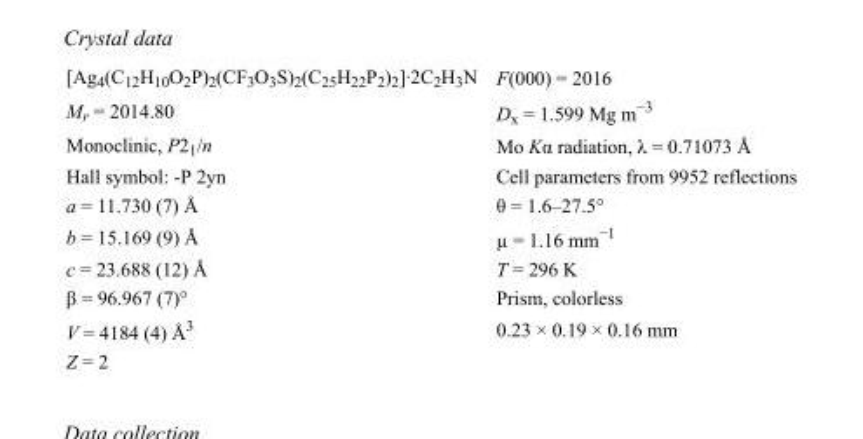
<table><tbody><tr><td>[Ag<sub>4</sub>(C<sub>12</sub>H<sub>10</sub>O<sub>2</sub>P)<sub>2</sub>(CF<sub>3</sub>O<sub>3</sub>S)<sub>2</sub>(C<sub>25</sub>H<sub>22</sub>P<sub>2</sub>)<sub>2</sub>]·2C<sub>2</sub>H<sub>3</sub>N</td><td>F(000) = 2016</td></tr><tr><td>M<sub>r</sub> = 2014.80</td><td>D<sub>x</sub> = 1.599 Mg m<sup>−3</sup></td></tr><tr><td>Monoclinic, P2<sub>1</sub>/n</td><td>Mo Kα radiation, λ = 0.71073 Å</td></tr><tr><td>Hall symbol: -P 2yn</td><td>Cell parameters from 9952 reflections</td></tr><tr><td>a = 11.730 (7) Å</td><td>θ = 1.6–27.5°</td></tr><tr><td>b = 15.169 (9) Å</td><td>µ = 1.16 mm<sup>−1</sup></td></tr><tr><td>c = 23.688 (12) Å</td><td>T = 296 K</td></tr><tr><td>β = 96.967 (7)°</td><td>Prism, colorless</td></tr><tr><td>V = 4184 (4) Å<sup>3</sup></td><td>0.23 × 0.19 × 0.16 mm</td></tr><tr><td>Z = 2</td><td></td></tr></tbody></table>